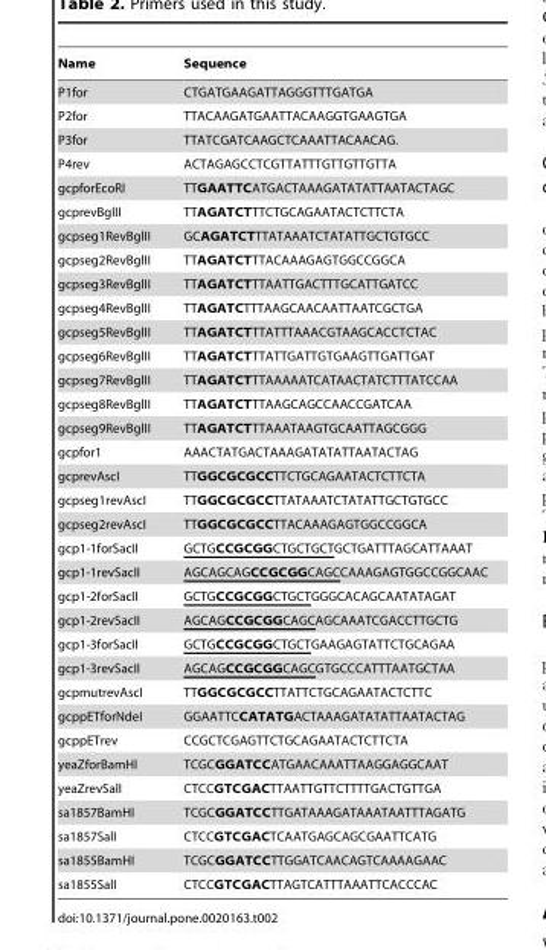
<table><thead><tr><td>Name</td><td>Sequence</td></tr></thead><tbody><tr><td>P1for</td><td>CTGATGAAGATTAGGGTTTGATGA</td></tr><tr><td>P2for</td><td>TTACAAGATGAATTACAAGGTGAAGTGA</td></tr><tr><td>P3for</td><td>TTATCGATCAAGCTCAAATTACAACAG.</td></tr><tr><td>P4rev</td><td>ACTAGAGCCTCGTTATTTGTTGTTGTTA</td></tr><tr><td>gcpforEcoRI</td><td>TTGAATTCATGACTAAAGATATATTAATACTAGC</td></tr><tr><td>gcprevBglII</td><td>TTAGATCTTTCTGCAGAATACTCTTCTA</td></tr><tr><td>gcpseg1RevBglII</td><td>GCAGATCTTTATAAATCTATATTGCTGTGCC</td></tr><tr><td>gcpseg2RevBglII</td><td>TTAGATCTTTACAAAGAGTGGCCGGCA</td></tr><tr><td>gcpseg3RevBglII</td><td>TTAGATCTTTAATTGACTTTGCATTGATCC</td></tr><tr><td>gcpseg4RevBglII</td><td>TTAGATCTTTAAGCAACAATTAATCGCTGA</td></tr><tr><td>gcpseg5RevBglII</td><td>TTAGATCTTTATTTAAACGTAAGCACCTCTAC</td></tr><tr><td>gcpseg6RevBglII</td><td>TTAGATCTTTATTGATTGTGAAGTTGATTGAT</td></tr><tr><td>gcpseg7RevBglII</td><td>TTAGATCTTTAAAAATCATAACTATCTTTATCCAA</td></tr><tr><td>gcpseg8RevBglII</td><td>TTAGATCTTTAAGCAGCCAACCGATCAA</td></tr><tr><td>gcpseg9RevBglII</td><td>TTAGATCTTTAAATAAGTGCAATTAGCGGG</td></tr><tr><td>gcpfor1</td><td>AAACTATGACTAAAGATATATTAATACTAG</td></tr><tr><td>gcprevAscI</td><td>TTGGCGCGCCTTCTGCAGAATACTCTTCTA</td></tr><tr><td>gcpseg1revAscI</td><td>TTGGCGCGCCTTATAAATCTATATTGCTGTGCC</td></tr><tr><td>gcpseg2revAscI</td><td>TTGGCGCGCCTTACAAAGAGTGGCCGGCA</td></tr><tr><td>gcp1-1forSacII</td><td>GCTGCCGCGGCTGCTGCTGCTGATTTAGCATTAAAT</td></tr><tr><td>gcp1-1revSacII</td><td>AGCAGCAGCCGCGGCAGCCAAAGAGTGGCCGGCAAC</td></tr><tr><td>gcp1-2forSacII</td><td>GCTGCCGCGGCTGCTGGGCACAGCAATATAGAT</td></tr><tr><td>gcp1-2revSacII</td><td>AGCAGCCGCGGCAGCAGCAAATCGACCTTGCTG</td></tr><tr><td>gcp1-3forSacII</td><td>GCTGCCGCGGCTGCTGAAGAGTATTCTGCAGAA</td></tr><tr><td>gcp1-3revSacII</td><td>AGCAGCCGCGGCAGCGTGCCCATTTAATGCTAA</td></tr><tr><td>gcpmutrevAscI</td><td>TTGGCGCGCCTTATTCTGCAGAATACTCTTC</td></tr><tr><td>gcppETforNdeI</td><td>GGAATTCCATATGACTAAAGATATATTAATACTAG</td></tr><tr><td>gcppETrev</td><td>CCGCTCGAGTTCTGCAGAATACTCTTCTA</td></tr><tr><td>yeaZforBamHI</td><td>TCGCGGATCCATGAACAAATTAAGGAGGCAAT</td></tr><tr><td>yeaZrevSalI</td><td>CTCCGTCGACTTAATTGTTCTTTTGACTGTTGA</td></tr><tr><td>sa1857BamHI</td><td>TCGCGGATCCTTGATAAAGATAAATAATTTAGATG</td></tr><tr><td>sa1857SalI</td><td>CTCCGTCGACTCAATGAGCAGCGAATTCATG</td></tr><tr><td>sa1855BamHI</td><td>TCGCGGATCCTTGGATCAACAGTCAAAAGAAC</td></tr><tr><td>sa1855SalI</td><td>CTCCGTCGACTTAGTCATTTAAATTCACCCAC</td></tr></tbody></table>